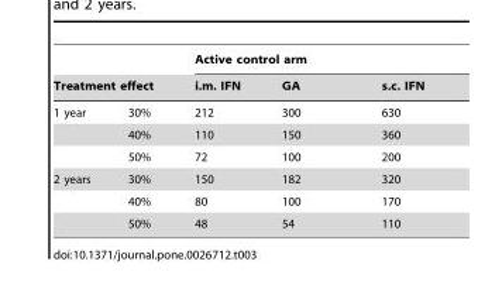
<table><thead><tr><td></td><td></td><td colspan="3">Active control arm</td></tr><tr><td colspan="2">Treatment effect</td><td>i.m. IFN</td><td>GA</td><td>s.c. IFN</td></tr></thead><tbody><tr><td rowspan="3">1 year</td><td>30%</td><td>212</td><td>300</td><td>630</td></tr><tr><td>40%</td><td>110</td><td>150</td><td>360</td></tr><tr><td>50%</td><td>72</td><td>100</td><td>200</td></tr><tr><td rowspan="3">2 years</td><td>30%</td><td>150</td><td>182</td><td>320</td></tr><tr><td>40%</td><td>80</td><td>100</td><td>170</td></tr><tr><td>50%</td><td>48</td><td>54</td><td>110</td></tr></tbody></table>